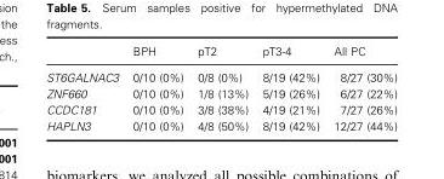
<table><thead><tr><td></td><td>BPH</td><td>pT2</td><td>pT3-4</td><td>All PC</td></tr></thead><tbody><tr><td>ST6GALNAC3</td><td>0/10 (0%)</td><td>0/8 (0%)</td><td>8/19 (42%)</td><td>8/27 (30%)</td></tr><tr><td>ZNF660</td><td>0/10 (0%)</td><td>1/8 (13%)</td><td>5/19 (26%)</td><td>6/27 (22%)</td></tr><tr><td>CCDC181</td><td>0/10 (0%)</td><td>3/8 (38%)</td><td>4/19 (21%)</td><td>7/27 (26%)</td></tr><tr><td>HAPLN3</td><td>0/10 (0%)</td><td>4/8 (50%)</td><td>8/19 (42%)</td><td>12/27 (44%)</td></tr></tbody></table>